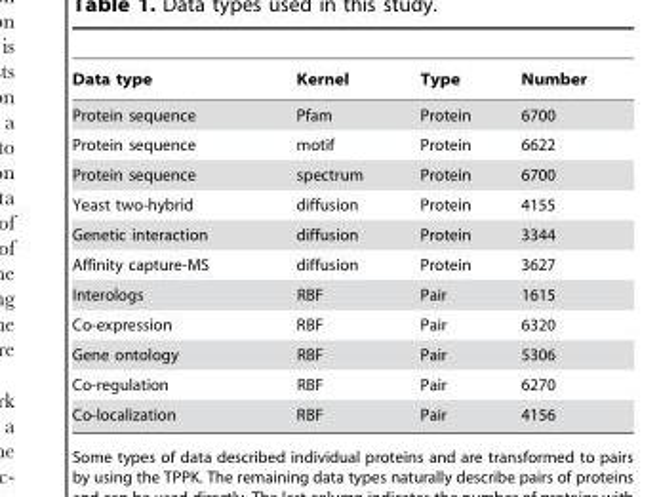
<table><thead><tr><td>Data type</td><td>Kernel</td><td>Type</td><td>Number</td></tr></thead><tbody><tr><td>Protein sequence</td><td>Pfam</td><td>Protein</td><td>6700</td></tr><tr><td>Protein sequence</td><td>motif</td><td>Protein</td><td>6622</td></tr><tr><td>Protein sequence</td><td>spectrum</td><td>Protein</td><td>6700</td></tr><tr><td>Yeast two-hybrid</td><td>diffusion</td><td>Protein</td><td>4155</td></tr><tr><td>Genetic interaction</td><td>diffusion</td><td>Protein</td><td>3344</td></tr><tr><td>Affinity capture-MS</td><td>diffusion</td><td>Protein</td><td>3627</td></tr><tr><td>Interologs</td><td>RBF</td><td>Pair</td><td>1615</td></tr><tr><td>Co-expression</td><td>RBF</td><td>Pair</td><td>6320</td></tr><tr><td>Gene ontology</td><td>RBF</td><td>Pair</td><td>5306</td></tr><tr><td>Co-regulation</td><td>RBF</td><td>Pair</td><td>6270</td></tr><tr><td>Co-localization</td><td>RBF</td><td>Pair</td><td>4156</td></tr></tbody></table>